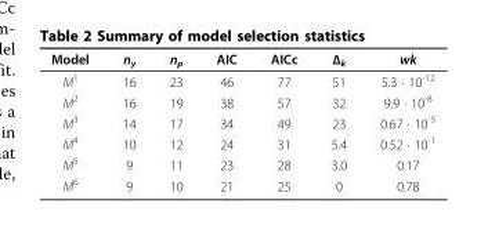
<table><thead><tr><td>Model</td><td>n<sub>y</sub></td><td>n<sub>p</sub></td><td>AIC</td><td>AICc</td><td>Δ<sub>k</sub></td><td>wk</td></tr></thead><tbody><tr><td>M<sup>1</sup></td><td>16</td><td>23</td><td>46</td><td>77</td><td>51</td><td>5.3 · 10<sup>-12</sup></td></tr><tr><td>M<sup>2</sup></td><td>16</td><td>19</td><td>38</td><td>57</td><td>32</td><td>9.9 · 10<sup>-8</sup></td></tr><tr><td>M<sup>3</sup></td><td>14</td><td>17</td><td>34</td><td>49</td><td>23</td><td>0.67 · 10<sup>-5</sup></td></tr><tr><td>M<sup>4</sup></td><td>10</td><td>12</td><td>24</td><td>31</td><td>5.4</td><td>0.52 · 10<sup>-1</sup></td></tr><tr><td>M<sup>5</sup></td><td>9</td><td>11</td><td>23</td><td>28</td><td>3.0</td><td>0.17</td></tr><tr><td>M<sup>6</sup></td><td>9</td><td>10</td><td>21</td><td>25</td><td>0</td><td>0.78</td></tr></tbody></table>